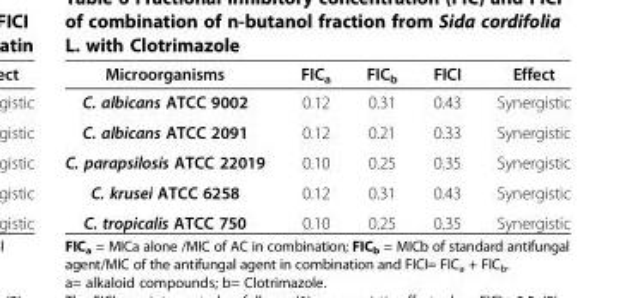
<table><thead><tr><td>Microorganisms</td><td>FIC<sub>a</sub></td><td>FIC<sub>b</sub></td><td>FICI</td><td>Effect</td></tr></thead><tbody><tr><td>C. albicans ATCC 9002</td><td>0.12</td><td>0.31</td><td>0.43</td><td>Synergistic</td></tr><tr><td>C. albicans ATCC 2091</td><td>0.12</td><td>0.21</td><td>0.33</td><td>Synergistic</td></tr><tr><td>C. parapsilosis ATCC 22019</td><td>0.10</td><td>0.25</td><td>0.35</td><td>Synergistic</td></tr><tr><td>C. krusei ATCC 6258</td><td>0.12</td><td>0.31</td><td>0.43</td><td>Synergistic</td></tr><tr><td>C. tropicalis ATCC 750</td><td>0.10</td><td>0.25</td><td>0.35</td><td>Synergistic</td></tr></tbody></table>